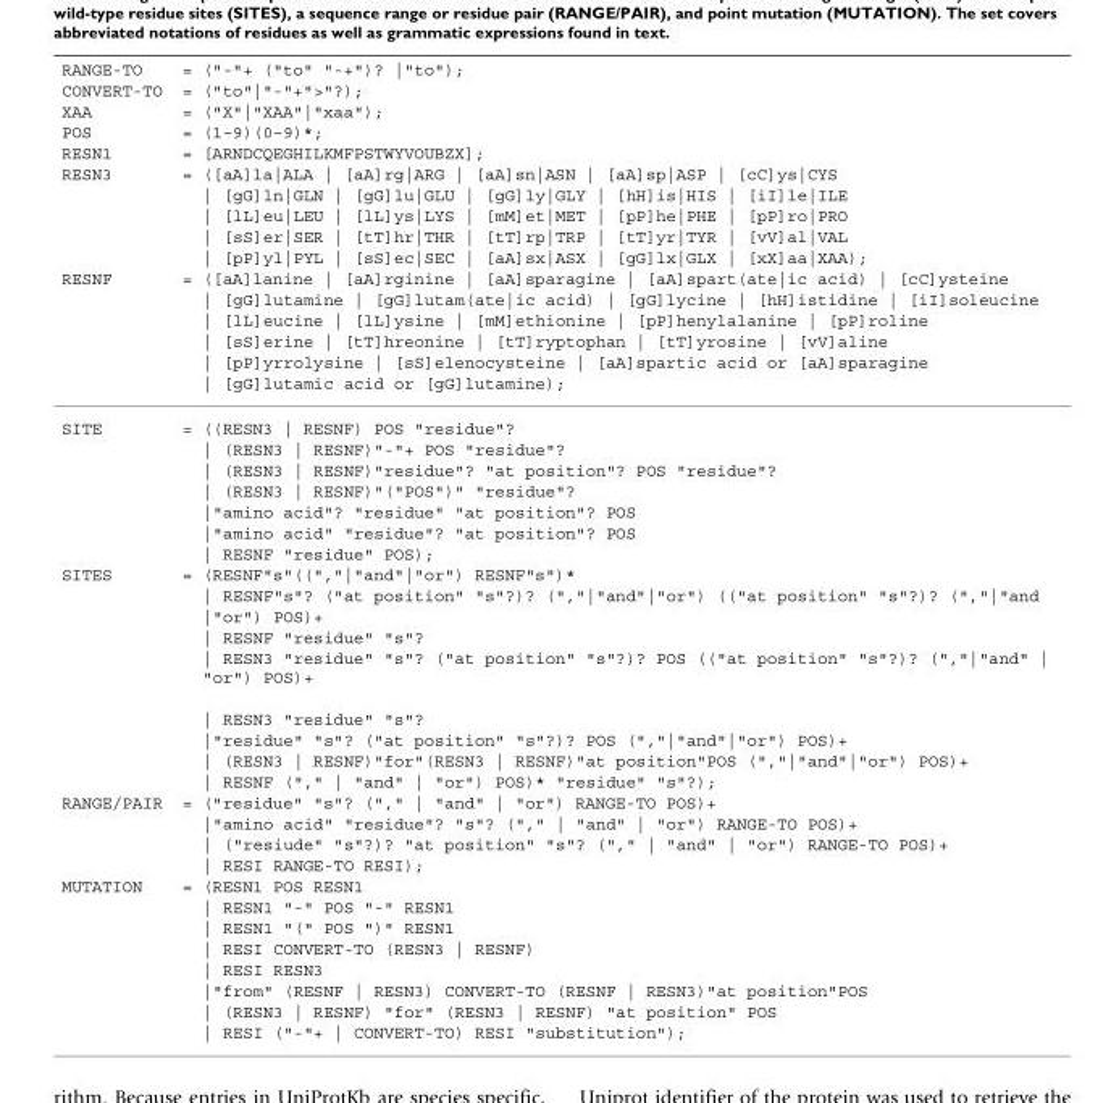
<table><thead><tr><td rowspan="16">RANGE-TO CONVERT-TO XAA POS RESN1 RESN3 RESNF</td><td rowspan="16">= (&quot;-&quot;+ (&quot;to&quot; &quot;-+&quot;)? |&quot;to&quot;); = (&quot;to&quot;|&quot;-&quot;+&quot;&gt;&quot;?); = (&quot;X&quot;|&quot;XAA&quot;|&quot;xaa&quot;); = (1–9)(0–9)*; = [ARNDCQEGHILKMFPSTWYVOUBZX]; = ([aA]la|ALA | [aA]rg|ARG | [aA]sn|ASN | [aA]sp|ASP | [cC]ys|CYS | [gG]ln|GLN | [gG]lu|GLU | [gG]ly|GLY | [hH]is|HIS | [iI]le|ILE | [lL]eu|LEU | [lL]ys|LYS | [mM]et|MET | [pP]he|PHE | [pP]ro|PRO | [sS]er|SER | [tT]hr|THR | [tT]rp|TRP | [tT]yr|TYR | [vV]al|VAL | [pP]yl|PYL | [sS]ec|SEC | [aA]sx|ASX | [gG]lx|GLX | [xX]aa|XAA); = ([aA]lanine | [aA]rginine | [aA]sparagine | [aA]spart(ate|ic acid) | [cC]ysteine | [gG]lutamine | [gG]lutam(ate|ic acid) | [gG]lycine | [hH]istidine | [iI]soleucine | [lL]eucine | [lL]ysine | [mM]ethionine | [pP]henylalanine | [pP]roline | [sS]erine | [tT]hreonine | [tT]ryptophan | [tT]yrosine | [vV]aline | [pP]yrrolysine | [sS]elenocysteine | [aA]spartic acid or [aA]sparagine | [gG]lutamic acid or [gG]lutamine);</td></tr><tr></tr><tr></tr><tr></tr><tr></tr><tr></tr><tr></tr><tr></tr><tr></tr><tr></tr><tr></tr><tr></tr><tr></tr><tr></tr><tr></tr><tr></tr></thead><tbody><tr><td rowspan="7">SITE</td><td>= ((RESN3 | RESNF) POS &quot;residue&quot;?</td></tr><tr><td>| (RESN3 | RESNF)&quot;-&quot;+ POS &quot;residue&quot;?</td></tr><tr><td>| (RESN3 | RESNF)&quot;residue&quot;? &quot;at position&quot;? POS &quot;residue&quot;?</td></tr><tr><td>| (RESN3 | RESNF)&quot;(&quot;POS&quot;)&quot; &quot;residue&quot;?</td></tr><tr><td>|&quot;amino acid&quot;? &quot;residue&quot; &quot;at position&quot;? POS</td></tr><tr><td>|&quot;amino acid&quot; &quot;residue&quot;? &quot;at position&quot;? POS</td></tr><tr><td>| RESNF &quot;residue&quot; POS);</td></tr><tr><td rowspan="9">SITES</td><td>= (RESNF&quot;s&quot;((&quot;,&quot;|&quot;and&quot;|&quot;or&quot;) RESNF&quot;s&quot;)*</td></tr><tr><td>| RESNF&quot;s&quot;? (&quot;at position&quot; &quot;s&quot;?)? (&quot;,&quot;|&quot;and&quot;|&quot;or&quot;) ((&quot;at position&quot; &quot;s&quot;?)? (&quot;,&quot;|&quot;and</td></tr><tr><td>|&quot;or&quot;) POS)+</td></tr><tr><td>| RESNF &quot;residue&quot; &quot;s&quot;?</td></tr><tr><td>| RESN3 &quot;residue&quot; &quot;s&quot;? (&quot;at position&quot; &quot;s&quot;?)? POS ((&quot;at position&quot; &quot;s&quot;?)? (&quot;,&quot;|&quot;and&quot; | &quot;or&quot;) POS)+</td></tr><tr><td>| RESN3 &quot;residue&quot; &quot;s&quot;?</td></tr><tr><td>|&quot;residue&quot; &quot;s&quot;? (&quot;at position&quot; &quot;s&quot;?)? POS (&quot;,&quot;|&quot;and&quot;|&quot;or&quot;) POS)+</td></tr><tr><td>| (RESN3 | RESNF)&quot;for&quot;(RESN3 | RESNF)&quot;at position&quot;POS (&quot;,&quot;|&quot;and&quot;|&quot;or&quot;) POS)+</td></tr><tr><td>| RESNF (&quot;,&quot; | &quot;and&quot; | &quot;or&quot;) POS)* &quot;residue&quot; &quot;s&quot;?);</td></tr><tr><td rowspan="4">RANGE/PAIR</td><td>= (&quot;residue&quot; &quot;s&quot;? (&quot;,&quot; | &quot;and&quot; | &quot;or&quot;) RANGE-TO POS)+</td></tr><tr><td>|&quot;amino acid&quot; &quot;residue&quot;? &quot;s&quot;? (&quot;,&quot; | &quot;and&quot; | &quot;or&quot;) RANGE-TO POS)+</td></tr><tr><td>| (&quot;resiude&quot; &quot;s&quot;?)? &quot;at position&quot; &quot;s&quot;? (&quot;,&quot; | &quot;and&quot; | &quot;or&quot;) RANGE-TO POS)+</td></tr><tr><td>| RESI RANGE-TO RESI);</td></tr><tr><td rowspan="8">MUTATION</td><td>= (RESN1 POS RESN1</td></tr><tr><td>| RESN1 &quot;-&quot; POS &quot;-&quot; RESN1</td></tr><tr><td>| RESN1 &quot;(&quot; POS &quot;)&quot; RESN1</td></tr><tr><td>| RESI CONVERT-TO (RESN3 | RESNF)</td></tr><tr><td>| RESI RESN3</td></tr><tr><td>|&quot;from&quot; (RESNF | RESN3) CONVERT-TO (RESNF | RESN3)&quot;at position&quot;POS</td></tr><tr><td>| (RESN3 | RESNF) &quot;for&quot; (RESN3 | RESNF) &quot;at position&quot; POS</td></tr><tr><td>| RESI (&quot;-&quot;+ | CONVERT-TO) RESI &quot;substitution&quot;);</td></tr></tbody></table>